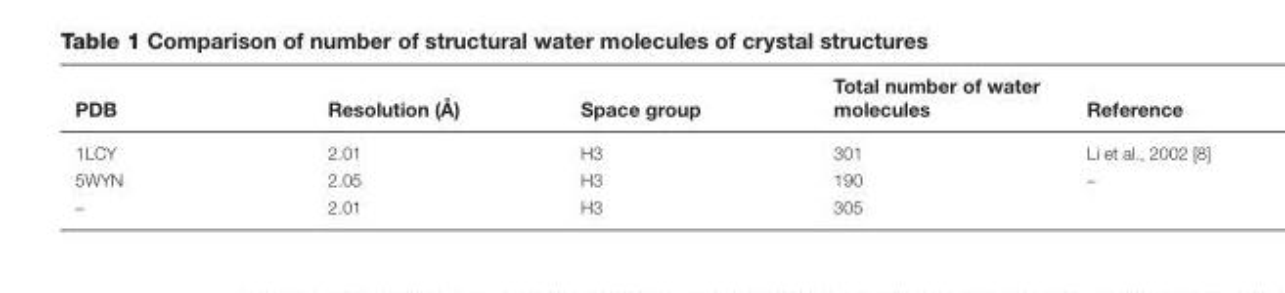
<table><thead><tr><td>PDB</td><td>Resolution ( ˚A)</td><td>Space group</td><td>Total number of water molecules</td><td>Reference</td></tr></thead><tbody><tr><td>1LCY</td><td>2.01</td><td>H3</td><td>301</td><td>Li et al., 2002 [8]</td></tr><tr><td>5WYN</td><td>2.05</td><td>H3</td><td>190</td><td>–</td></tr><tr><td>–</td><td>2.01</td><td>H3</td><td>305</td><td></td></tr></tbody></table>